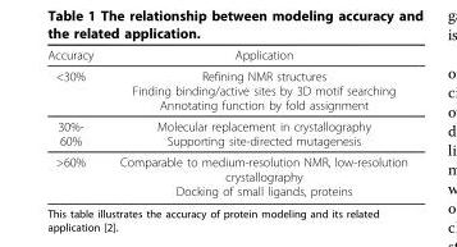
<table><thead><tr><td>Accuracy</td><td>Application</td></tr></thead><tbody><tr><td>&lt;30%</td><td>Refining NMR structures Finding binding/active sites by 3D motif searching Annotating function by fold assignment</td></tr><tr><td>30%- 60%</td><td>Molecular replacement in crystallography Supporting site-directed mutagenesis</td></tr><tr><td>&gt;60%</td><td>Comparable to medium-resolution NMR, low-resolution crystallography Docking of small ligands, proteins</td></tr></tbody></table>